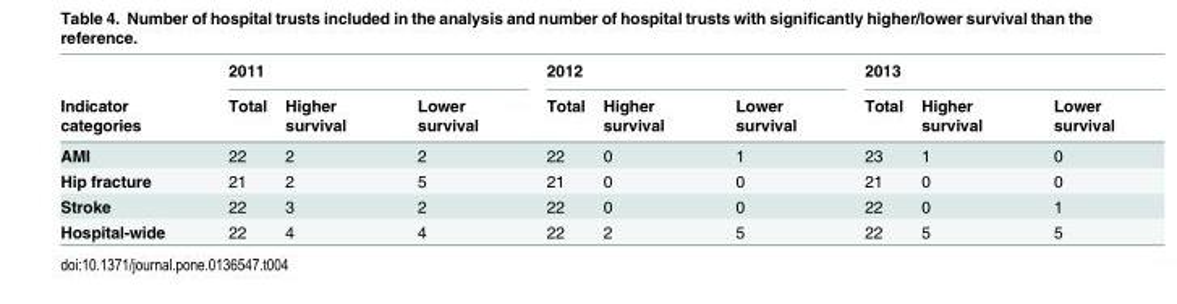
<table><thead><tr><td rowspan="2">Indicator categories</td><td colspan="3">2011</td><td colspan="3">2012</td><td colspan="3">2013</td></tr><tr><td>Total</td><td>Higher survival</td><td>Lower survival</td><td>Total</td><td>Higher survival</td><td>Lower survival</td><td>Total</td><td>Higher survival</td><td>Lower survival</td></tr></thead><tbody><tr><td>AMI</td><td>22</td><td>2</td><td>2</td><td>22</td><td>0</td><td>1</td><td>23</td><td>1</td><td>0</td></tr><tr><td>Hip fracture</td><td>21</td><td>2</td><td>5</td><td>21</td><td>0</td><td>0</td><td>21</td><td>0</td><td>0</td></tr><tr><td>Stroke</td><td>22</td><td>3</td><td>2</td><td>22</td><td>0</td><td>0</td><td>22</td><td>0</td><td>1</td></tr><tr><td>Hospital-wide</td><td>22</td><td>4</td><td>4</td><td>22</td><td>2</td><td>5</td><td>22</td><td>5</td><td>5</td></tr></tbody></table>